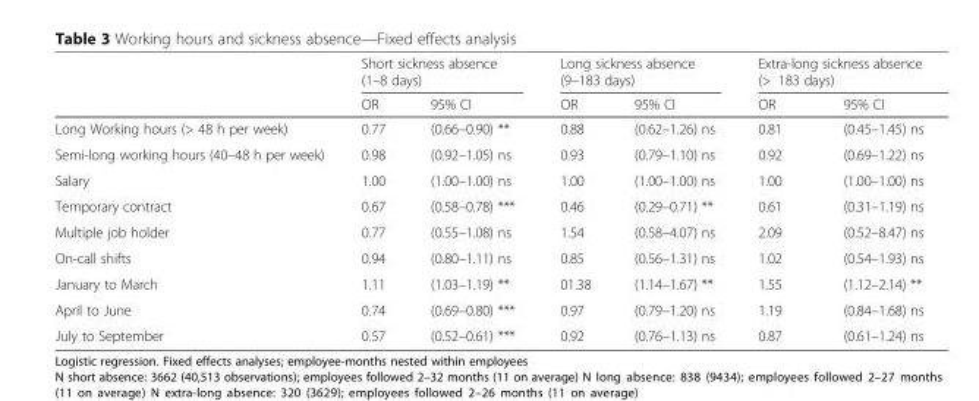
<table><thead><tr><td rowspan="2"></td><td colspan="2">Short sickness absence (1–8 days)</td><td colspan="2">Long sickness absence (9–183 days)</td><td colspan="2">Extra-long sickness absence (&gt; 183 days)</td></tr><tr><td>OR</td><td>95% CI</td><td>OR</td><td>95% CI</td><td>OR</td><td>95% CI</td></tr></thead><tbody><tr><td>Long Working hours (&gt; 48 h per week)</td><td>0.77</td><td>(0.66–0.90) **</td><td>0.88</td><td>(0.62–1.26) ns</td><td>0.81</td><td>(0.45–1.45) ns</td></tr><tr><td>Semi-long working hours (40–48 h per week)</td><td>0.98</td><td>(0.92–1.05) ns</td><td>0.93</td><td>(0.79–1.10) ns</td><td>0.92</td><td>(0.69–1.22) ns</td></tr><tr><td>Salary</td><td>1.00</td><td>(1.00–1.00) ns</td><td>1.00</td><td>(1.00–1.00) ns</td><td>1.00</td><td>(1.00–1.00) ns</td></tr><tr><td>Temporary contract</td><td>0.67</td><td>(0.58–0.78) ***</td><td>0.46</td><td>(0.29–0.71) **</td><td>0.61</td><td>(0.31–1.19) ns</td></tr><tr><td>Multiple job holder</td><td>0.77</td><td>(0.55–1.08) ns</td><td>1.54</td><td>(0.58–4.07) ns</td><td>2.09</td><td>(0.52–8.47) ns</td></tr><tr><td>On-call shifts</td><td>0.94</td><td>(0.80–1.11) ns</td><td>0.85</td><td>(0.56–1.31) ns</td><td>1.02</td><td>(0.54–1.93) ns</td></tr><tr><td>January to March</td><td>1.11</td><td>(1.03–1.19) **</td><td>01.38</td><td>(1.14–1.67) **</td><td>1.55</td><td>(1.12–2.14) **</td></tr><tr><td>April to June</td><td>0.74</td><td>(0.69–0.80) ***</td><td>0.97</td><td>(0.79–1.20) ns</td><td>1.19</td><td>(0.84–1.68) ns</td></tr><tr><td>July to September</td><td>0.57</td><td>(0.52–0.61) ***</td><td>0.92</td><td>(0.76–1.13) ns</td><td>0.87</td><td>(0.61–1.24) ns</td></tr></tbody></table>